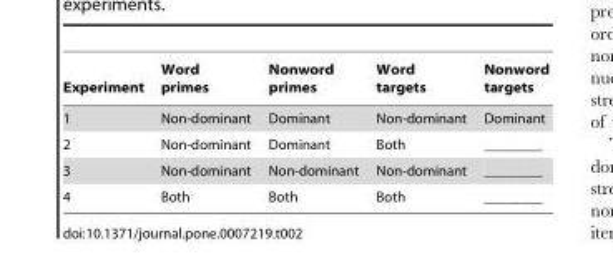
<table><thead><tr><td>Experiment</td><td>Word primes</td><td>Nonword primes</td><td>Word targets</td><td>Nonword targets</td></tr></thead><tbody><tr><td>1</td><td>Non-dominant</td><td>Dominant</td><td>Non-dominant</td><td>Dominant</td></tr><tr><td>2</td><td>Non-dominant</td><td>Dominant</td><td>Both</td><td>________</td></tr><tr><td>3</td><td>Non-dominant</td><td>Non-dominant</td><td>Non-dominant</td><td>________</td></tr><tr><td>4</td><td>Both</td><td>Both</td><td>Both</td><td>________</td></tr></tbody></table>